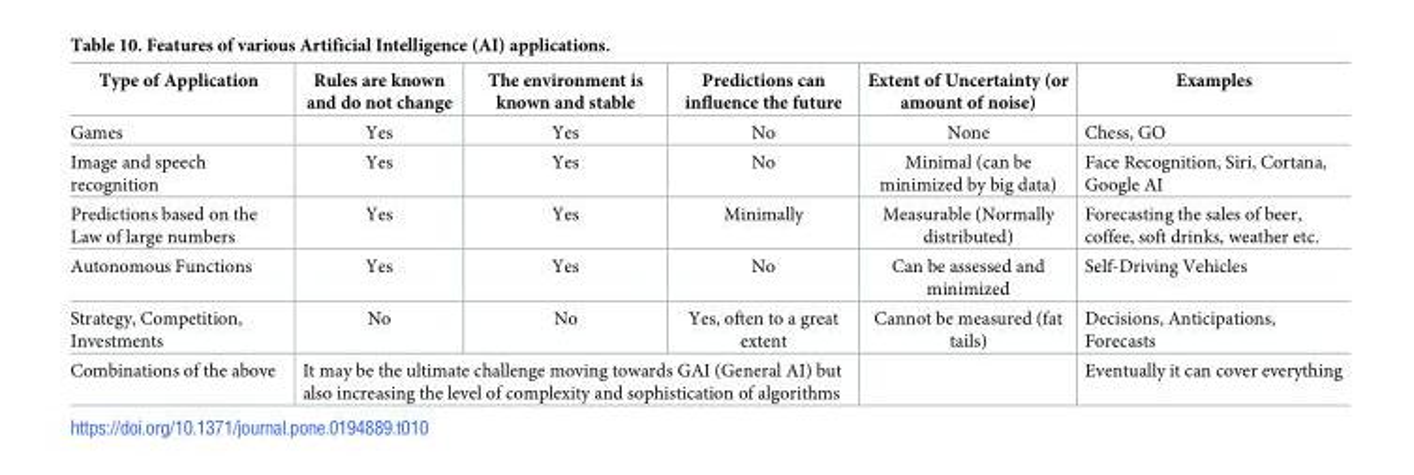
<table><thead><tr><td>Type of Application</td><td>Rules are known and do not change</td><td>The environment is known and stable</td><td>Predictions can influence the future</td><td>Extent of Uncertainty (or amount of noise)</td><td>Examples</td></tr></thead><tbody><tr><td>Games</td><td>Yes</td><td>Yes</td><td>No</td><td>None</td><td>Chess, GO</td></tr><tr><td>Image and speech recognition</td><td>Yes</td><td>Yes</td><td>No</td><td>Minimal (can be minimized by big data)</td><td>Face Recognition, Siri, Cortana, Google AI</td></tr><tr><td>Predictions based on the Law of large numbers</td><td>Yes</td><td>Yes</td><td>Minimally</td><td>Measurable (Normally distributed)</td><td>Forecasting the sales of beer, coffee, soft drinks, weather etc.</td></tr><tr><td>Autonomous Functions</td><td>Yes</td><td>Yes</td><td>No</td><td>Can be assessed and minimized</td><td>Self-Driving Vehicles</td></tr><tr><td>Strategy, Competition, Investments</td><td>No</td><td>No</td><td>Yes, often to a great extent</td><td>Cannot be measured (fat tails)</td><td>Decisions, Anticipations, Forecasts</td></tr><tr><td>Combinations of the above</td><td colspan="3">It may be the ultimate challenge moving towards GAI (General AI) but also increasing the level of complexity and sophistication of algorithms</td><td></td><td>Eventually it can cover everything</td></tr></tbody></table>